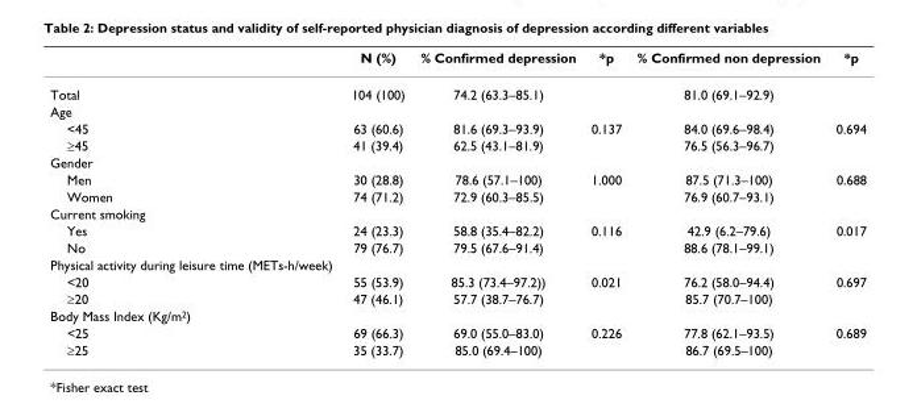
<table><thead><tr><td></td><td>N (%)</td><td>% Confirmed depression</td><td>*p</td><td>% Confirmed non depression</td><td>*p</td></tr></thead><tbody><tr><td>Total</td><td>104 (100)</td><td>74.2 (63.3–85.1)</td><td></td><td>81.0 (69.1–92.9)</td><td></td></tr><tr><td colspan="6">Age</td></tr><tr><td>&lt;45</td><td>63 (60.6)</td><td>81.6 (69.3–93.9)</td><td>0.137</td><td>84.0 (69.6–98.4)</td><td>0.694</td></tr><tr><td>≥45</td><td>41 (39.4)</td><td>62.5 (43.1–81.9)</td><td></td><td>76.5 (56.3–96.7)</td><td></td></tr><tr><td colspan="6">Gender</td></tr><tr><td>Men</td><td>30 (28.8)</td><td>78.6 (57.1–100)</td><td>1.000</td><td>87.5 (71.3–100)</td><td>0.688</td></tr><tr><td>Women</td><td>74 (71.2)</td><td>72.9 (60.3–85.5)</td><td></td><td>76.9 (60.7–93.1)</td><td></td></tr><tr><td colspan="6">Current smoking</td></tr><tr><td>Yes</td><td>24 (23.3)</td><td>58.8 (35.4–82.2)</td><td>0.116</td><td>42.9 (6.2–79.6)</td><td>0.017</td></tr><tr><td>No</td><td>79 (76.7)</td><td>79.5 (67.6–91.4)</td><td></td><td>88.6 (78.1–99.1)</td><td></td></tr><tr><td colspan="6">Physical activity during leisure time (METs-h/week)</td></tr><tr><td>&lt;20</td><td>55 (53.9)</td><td>85.3 (73.4–97.2))</td><td>0.021</td><td>76.2 (58.0–94.4)</td><td>0.697</td></tr><tr><td>≥20</td><td>47 (46.1)</td><td>57.7 (38.7–76.7)</td><td></td><td>85.7 (70.7–100)</td><td></td></tr><tr><td colspan="6">Body Mass Index (Kg/m<sup>2</sup>)</td></tr><tr><td>&lt;25</td><td>69 (66.3)</td><td>69.0 (55.0–83.0)</td><td>0.226</td><td>77.8 (62.1–93.5)</td><td>0.689</td></tr><tr><td>≥25</td><td>35 (33.7)</td><td>85.0 (69.4–100)</td><td></td><td>86.7 (69.5–100)</td><td></td></tr></tbody></table>